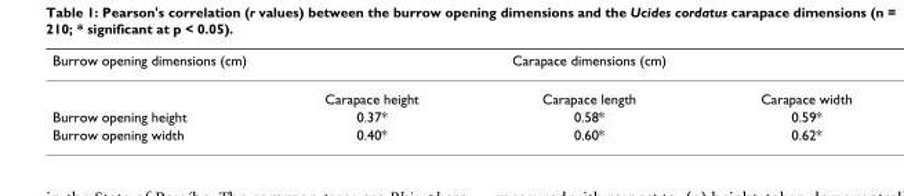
<table><thead><tr><td rowspan="2">Burrow opening dimensions (cm)</td><td colspan="3">Carapace dimensions (cm)</td></tr><tr><td>Carapace height</td><td>Carapace length</td><td>Carapace width</td></tr></thead><tbody><tr><td>Burrow opening height</td><td>0.37*</td><td>0.58*</td><td>0.59*</td></tr><tr><td>Burrow opening width</td><td>0.40*</td><td>0.60*</td><td>0.62*</td></tr></tbody></table>